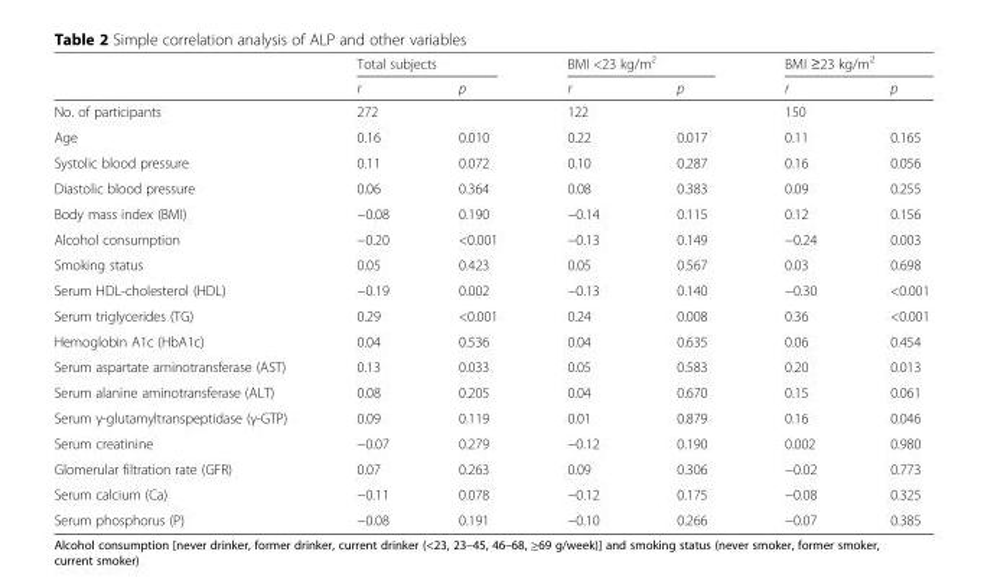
<table><thead><tr><td rowspan="2"></td><td colspan="2">Total subjects</td><td colspan="2">BMI &lt;23 kg/m<sup>2</sup></td><td colspan="2">BMI ≥23 kg/m<sup>2</sup></td></tr><tr><td>r</td><td>p</td><td>r</td><td>p</td><td>r</td><td>p</td></tr></thead><tbody><tr><td>No. of participants</td><td colspan="2">272</td><td colspan="2">122</td><td colspan="2">150</td></tr><tr><td>Age</td><td>0.16</td><td>0.010</td><td>0.22</td><td>0.017</td><td>0.11</td><td>0.165</td></tr><tr><td>Systolic blood pressure</td><td>0.11</td><td>0.072</td><td>0.10</td><td>0.287</td><td>0.16</td><td>0.056</td></tr><tr><td>Diastolic blood pressure</td><td>0.06</td><td>0.364</td><td>0.08</td><td>0.383</td><td>0.09</td><td>0.255</td></tr><tr><td>Body mass index (BMI)</td><td>−0.08</td><td>0.190</td><td>−0.14</td><td>0.115</td><td>0.12</td><td>0.156</td></tr><tr><td>Alcohol consumption</td><td>−0.20</td><td>&lt;0.001</td><td>−0.13</td><td>0.149</td><td>−0.24</td><td>0.003</td></tr><tr><td>Smoking status</td><td>0.05</td><td>0.423</td><td>0.05</td><td>0.567</td><td>0.03</td><td>0.698</td></tr><tr><td>Serum HDL-cholesterol (HDL)</td><td>−0.19</td><td>0.002</td><td>−0.13</td><td>0.140</td><td>−0.30</td><td>&lt;0.001</td></tr><tr><td>Serum triglycerides (TG)</td><td>0.29</td><td>&lt;0.001</td><td>0.24</td><td>0.008</td><td>0.36</td><td>&lt;0.001</td></tr><tr><td>Hemoglobin A1c (HbA1c)</td><td>0.04</td><td>0.536</td><td>0.04</td><td>0.635</td><td>0.06</td><td>0.454</td></tr><tr><td>Serum aspartate aminotransferase (AST)</td><td>0.13</td><td>0.033</td><td>0.05</td><td>0.583</td><td>0.20</td><td>0.013</td></tr><tr><td>Serum alanine aminotransferase (ALT)</td><td>0.08</td><td>0.205</td><td>0.04</td><td>0.670</td><td>0.15</td><td>0.061</td></tr><tr><td>Serum γ-glutamyltranspeptidase (γ-GTP)</td><td>0.09</td><td>0.119</td><td>0.01</td><td>0.879</td><td>0.16</td><td>0.046</td></tr><tr><td>Serum creatinine</td><td>−0.07</td><td>0.279</td><td>−0.12</td><td>0.190</td><td>0.002</td><td>0.980</td></tr><tr><td>Glomerular filtration rate (GFR)</td><td>0.07</td><td>0.263</td><td>0.09</td><td>0.306</td><td>−0.02</td><td>0.773</td></tr><tr><td>Serum calcium (Ca)</td><td>−0.11</td><td>0.078</td><td>−0.12</td><td>0.175</td><td>−0.08</td><td>0.325</td></tr><tr><td>Serum phosphorus (P)</td><td>−0.08</td><td>0.191</td><td>−0.10</td><td>0.266</td><td>−0.07</td><td>0.385</td></tr></tbody></table>